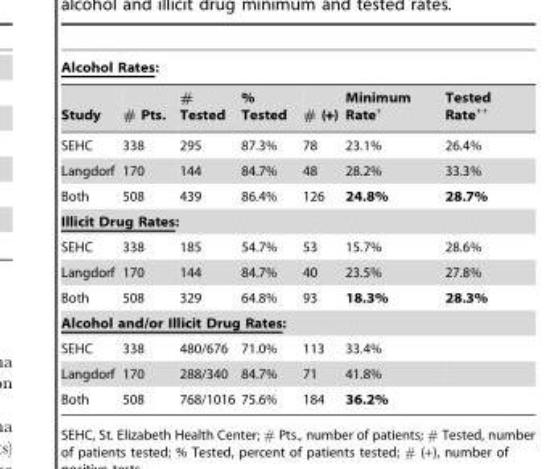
<table><thead><tr><td colspan="7">Alcohol Rates:</td></tr><tr><td>Study</td><td># Pts.</td><td># Tested</td><td>% Tested</td><td># (+)</td><td>Minimum Rate+</td><td>Tested Rate++</td></tr></thead><tbody><tr><td>SEHC</td><td>338</td><td>295</td><td>87.3%</td><td>78</td><td>23.1%</td><td>26.4%</td></tr><tr><td>Langdorf</td><td>170</td><td>144</td><td>84.7%</td><td>48</td><td>28.2%</td><td>33.3%</td></tr><tr><td>Both</td><td>508</td><td>439</td><td>86.4%</td><td>126</td><td>24.8%</td><td>28.7%</td></tr><tr><td colspan="7">Illicit Drug Rates:</td></tr><tr><td>SEHC</td><td>338</td><td>185</td><td>54.7%</td><td>53</td><td>15.7%</td><td>28.6%</td></tr><tr><td>Langdorf</td><td>170</td><td>144</td><td>84.7%</td><td>40</td><td>23.5%</td><td>27.8%</td></tr><tr><td>Both</td><td>508</td><td>329</td><td>64.8%</td><td>93</td><td>18.3%</td><td>28.3%</td></tr><tr><td colspan="7">Alcohol and/or Illicit Drug Rates:</td></tr><tr><td>SEHC</td><td>338</td><td>480/676</td><td>71.0%</td><td>113</td><td>33.4%</td><td></td></tr><tr><td>Langdorf</td><td>170</td><td>288/340</td><td>84.7%</td><td>71</td><td>41.8%</td><td></td></tr><tr><td>Both</td><td>508</td><td>768/1016</td><td>75.6%</td><td>184</td><td>36.2%</td><td></td></tr></tbody></table>